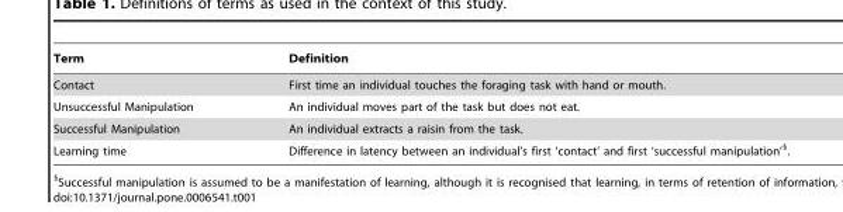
<table><thead><tr><td>Term</td><td>Definition</td></tr></thead><tbody><tr><td>Contact</td><td>First time an individual touches the foraging task with hand or mouth.</td></tr><tr><td>Unsuccessful Manipulation</td><td>An individual moves part of the task but does not eat.</td></tr><tr><td>Successful Manipulation</td><td>An individual extracts a raisin from the task.</td></tr><tr><td>Learning time</td><td>Difference in latency between an individual’s first ‘contact’ and first ‘successful manipulation’§.</td></tr></tbody></table>